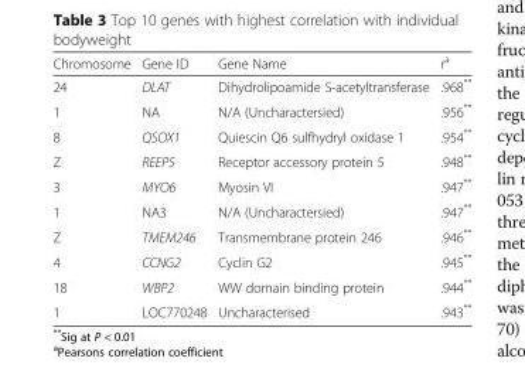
<table><thead><tr><td>Chromosome</td><td>Gene ID</td><td>Gene Name</td><td>r<sup>a</sup></td></tr></thead><tbody><tr><td>24</td><td>DLAT</td><td>Dihydrolipoamide S-acetyltransferase</td><td>.968**</td></tr><tr><td>1</td><td>NA</td><td>N/A (Uncharactersied)</td><td>.956**</td></tr><tr><td>8</td><td>QSOX1</td><td>Quiescin Q6 sulfhydryl oxidase 1</td><td>.954**</td></tr><tr><td>Z</td><td>REEP5</td><td>Receptor accessory protein 5</td><td>.948**</td></tr><tr><td>3</td><td>MYO6</td><td>Myosin VI</td><td>.947**</td></tr><tr><td>1</td><td>NA3</td><td>N/A (Uncharactersied)</td><td>.947**</td></tr><tr><td>Z</td><td>TMEM246</td><td>Transmembrane protein 246</td><td>.946**</td></tr><tr><td>4</td><td>CCNG2</td><td>Cyclin G2</td><td>.945**</td></tr><tr><td>18</td><td>WBP2</td><td>WW domain binding protein</td><td>.944**</td></tr><tr><td>1</td><td>LOC770248</td><td>Uncharacterised</td><td>.943**</td></tr></tbody></table>